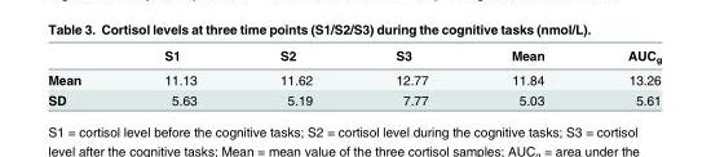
<table><thead><tr><td></td><td>S1</td><td>S2</td><td>S3</td><td>Mean</td><td>AUC<sub>g</sub></td></tr></thead><tbody><tr><td>Mean</td><td>11.13</td><td>11.62</td><td>12.77</td><td>11.84</td><td>13.26</td></tr><tr><td>SD</td><td>5.63</td><td>5.19</td><td>7.77</td><td>5.03</td><td>5.61</td></tr></tbody></table>